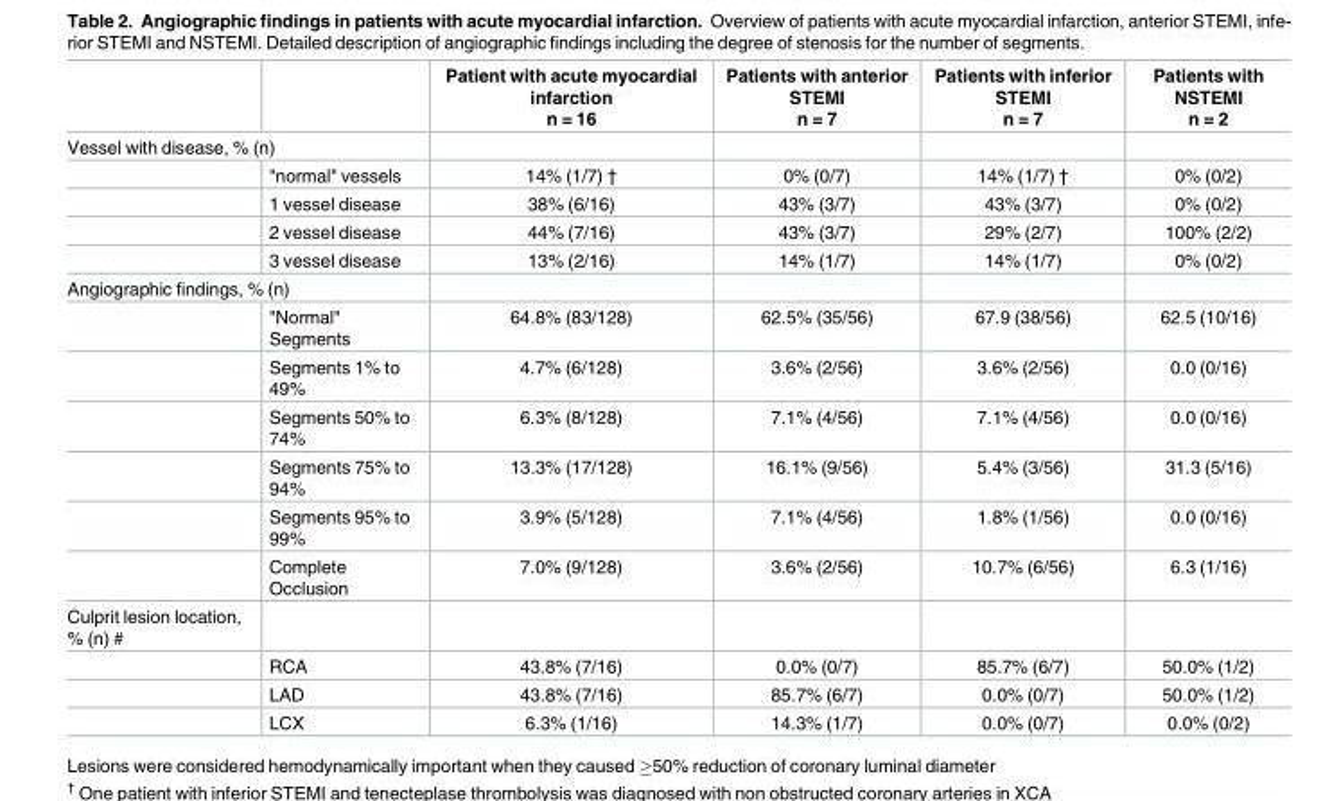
<table><thead><tr><td></td><td></td><td>Patient with acute myocardial infarction n = 16</td><td>Patients with anterior STEMI n = 7</td><td>Patients with inferior STEMI n = 7</td><td>Patients with NSTEMI n = 2</td></tr></thead><tbody><tr><td colspan="6">Vessel with disease, % (n)</td></tr><tr><td></td><td>&quot;normal&quot; vessels</td><td>14% (1/7) †</td><td>0% (0/7)</td><td>14% (1/7) †</td><td>0% (0/2)</td></tr><tr><td></td><td>1 vessel disease</td><td>38% (6/16)</td><td>43% (3/7)</td><td>43% (3/7)</td><td>0% (0/2)</td></tr><tr><td></td><td>2 vessel disease</td><td>44% (7/16)</td><td>43% (3/7)</td><td>29% (2/7)</td><td>100% (2/2)</td></tr><tr><td></td><td>3 vessel disease</td><td>13% (2/16)</td><td>14% (1/7)</td><td>14% (1/7)</td><td>0% (0/2)</td></tr><tr><td colspan="6">Angiographic findings, % (n)</td></tr><tr><td></td><td>&quot;Normal&quot; Segments</td><td>64.8% (83/128)</td><td>62.5% (35/56)</td><td>67.9 (38/56)</td><td>62.5 (10/16)</td></tr><tr><td></td><td>Segments 1% to 49%</td><td>4.7% (6/128)</td><td>3.6% (2/56)</td><td>3.6% (2/56)</td><td>0.0 (0/16)</td></tr><tr><td></td><td>Segments 50% to 74%</td><td>6.3% (8/128)</td><td>7.1% (4/56)</td><td>7.1% (4/56)</td><td>0.0 (0/16)</td></tr><tr><td></td><td>Segments 75% to 94%</td><td>13.3% (17/128)</td><td>16.1% (9/56)</td><td>5.4% (3/56)</td><td>31.3 (5/16)</td></tr><tr><td></td><td>Segments 95% to 99%</td><td>3.9% (5/128)</td><td>7.1% (4/56)</td><td>1.8% (1/56)</td><td>0.0 (0/16)</td></tr><tr><td></td><td>Complete Occlusion</td><td>7.0% (9/128)</td><td>3.6% (2/56)</td><td>10.7% (6/56)</td><td>6.3 (1/16)</td></tr><tr><td colspan="6">Culprit lesion location, % (n) #</td></tr><tr><td></td><td>RCA</td><td>43.8% (7/16)</td><td>0.0% (0/7)</td><td>85.7% (6/7)</td><td>50.0% (1/2)</td></tr><tr><td></td><td>LAD</td><td>43.8% (7/16)</td><td>85.7% (6/7)</td><td>0.0% (0/7)</td><td>50.0% (1/2)</td></tr><tr><td></td><td>LCX</td><td>6.3% (1/16)</td><td>14.3% (1/7)</td><td>0.0% (0/7)</td><td>0.0% (0/2)</td></tr></tbody></table>